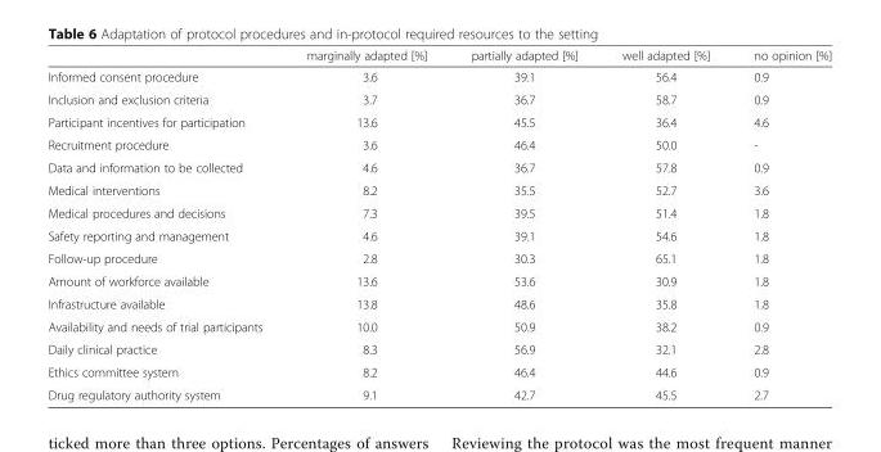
<table><thead><tr><td></td><td>marginally adapted [%]</td><td>partially adapted [%]</td><td>well adapted [%]</td><td>no opinion [%]</td></tr></thead><tbody><tr><td>Informed consent procedure</td><td>3.6</td><td>39.1</td><td>56.4</td><td>0.9</td></tr><tr><td>Inclusion and exclusion criteria</td><td>3.7</td><td>36.7</td><td>58.7</td><td>0.9</td></tr><tr><td>Participant incentives for participation</td><td>13.6</td><td>45.5</td><td>36.4</td><td>4.6</td></tr><tr><td>Recruitment procedure</td><td>3.6</td><td>46.4</td><td>50.0</td><td>-</td></tr><tr><td>Data and information to be collected</td><td>4.6</td><td>36.7</td><td>57.8</td><td>0.9</td></tr><tr><td>Medical interventions</td><td>8.2</td><td>35.5</td><td>52.7</td><td>3.6</td></tr><tr><td>Medical procedures and decisions</td><td>7.3</td><td>39.5</td><td>51.4</td><td>1.8</td></tr><tr><td>Safety reporting and management</td><td>4.6</td><td>39.1</td><td>54.6</td><td>1.8</td></tr><tr><td>Follow-up procedure</td><td>2.8</td><td>30.3</td><td>65.1</td><td>1.8</td></tr><tr><td>Amount of workforce available</td><td>13.6</td><td>53.6</td><td>30.9</td><td>1.8</td></tr><tr><td>Infrastructure available</td><td>13.8</td><td>48.6</td><td>35.8</td><td>1.8</td></tr><tr><td>Availability and needs of trial participants</td><td>10.0</td><td>50.9</td><td>38.2</td><td>0.9</td></tr><tr><td>Daily clinical practice</td><td>8.3</td><td>56.9</td><td>32.1</td><td>2.8</td></tr><tr><td>Ethics committee system</td><td>8.2</td><td>46.4</td><td>44.6</td><td>0.9</td></tr><tr><td>Drug regulatory authority system</td><td>9.1</td><td>42.7</td><td>45.5</td><td>2.7</td></tr></tbody></table>